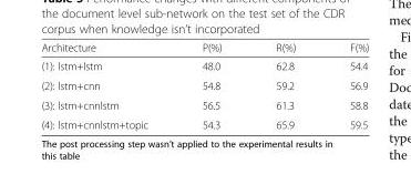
<table><thead><tr><td>Architecture</td><td>P(%)</td><td>R(%)</td><td>F(%)</td></tr></thead><tbody><tr><td>(1): lstm+lstm</td><td>48.0</td><td>62.8</td><td>54.4</td></tr><tr><td>(2): lstm+cnn</td><td>54.8</td><td>59.2</td><td>56.9</td></tr><tr><td>(3): lstm+cnnlstm</td><td>56.5</td><td>61.3</td><td>58.8</td></tr><tr><td>(4): lstm+cnnlstm+topic</td><td>54.3</td><td>65.9</td><td>59.5</td></tr></tbody></table>